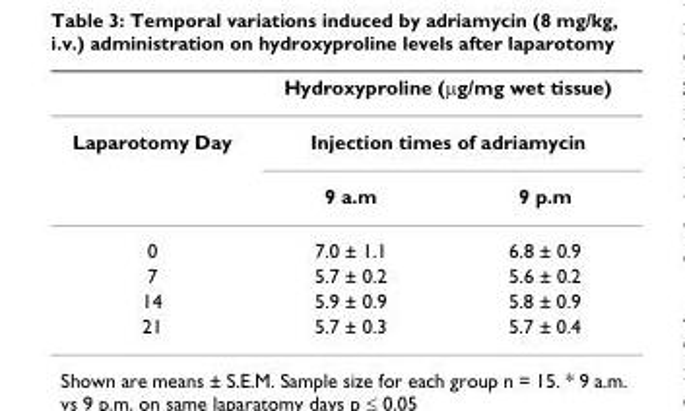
<table><thead><tr><td rowspan="3">Laparotomy Day</td><td rowspan="2" colspan="2">Hydroxyproline (μg/mg wet tissue) Injection times of adriamycin</td></tr><tr></tr><tr><td>9 a.m</td><td>9 p.m</td></tr></thead><tbody><tr><td>0</td><td>7.0 ± 1.1</td><td>6.8 ± 0.9</td></tr><tr><td>7</td><td>5.7 ± 0.2</td><td>5.6 ± 0.2</td></tr><tr><td>14</td><td>5.9 ± 0.9</td><td>5.8 ± 0.9</td></tr><tr><td>21</td><td>5.7 ± 0.3</td><td>5.7 ± 0.4</td></tr></tbody></table>